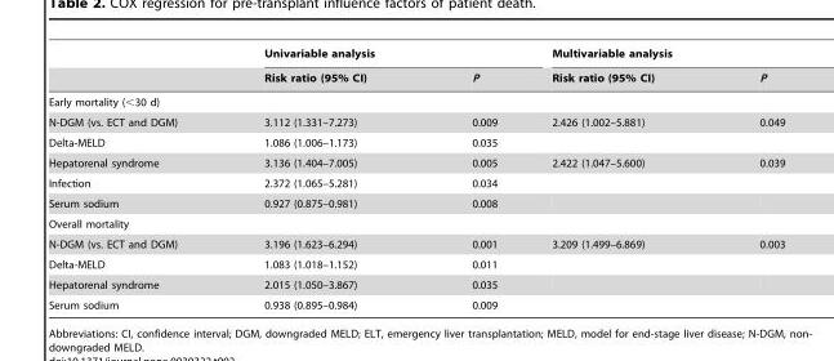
<table><thead><tr><td rowspan="2"></td><td colspan="2">Univariable analysis</td><td colspan="2">Multivariable analysis</td></tr><tr><td>Risk ratio (95% CI)</td><td>P</td><td>Risk ratio (95% CI)</td><td>P</td></tr></thead><tbody><tr><td colspan="5">Early mortality (&lt;30 d)</td></tr><tr><td>N-DGM (vs. ECT and DGM)</td><td>3.112 (1.331–7.273)</td><td>0.009</td><td>2.426 (1.002–5.881)</td><td>0.049</td></tr><tr><td>Delta-MELD</td><td>1.086 (1.006–1.173)</td><td>0.035</td><td></td><td></td></tr><tr><td>Hepatorenal syndrome</td><td>3.136 (1.404–7.005)</td><td>0.005</td><td>2.422 (1.047–5.600)</td><td>0.039</td></tr><tr><td>Infection</td><td>2.372 (1.065–5.281)</td><td>0.034</td><td></td><td></td></tr><tr><td>Serum sodium</td><td>0.927 (0.875–0.981)</td><td>0.008</td><td></td><td></td></tr><tr><td colspan="5">Overall mortality</td></tr><tr><td>N-DGM (vs. ECT and DGM)</td><td>3.196 (1.623–6.294)</td><td>0.001</td><td>3.209 (1.499–6.869)</td><td>0.003</td></tr><tr><td>Delta-MELD</td><td>1.083 (1.018–1.152)</td><td>0.011</td><td></td><td></td></tr><tr><td>Hepatorenal syndrome</td><td>2.015 (1.050–3.867)</td><td>0.035</td><td></td><td></td></tr><tr><td>Serum sodium</td><td>0.938 (0.895–0.984)</td><td>0.009</td><td></td><td></td></tr></tbody></table>